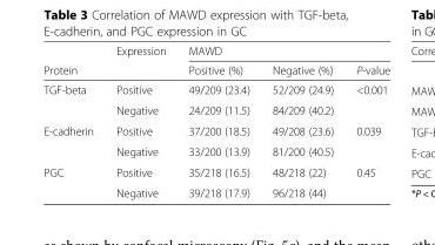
<table><thead><tr><td rowspan="2">Protein</td><td rowspan="2">Expression</td><td colspan="3">MAWD</td></tr><tr><td>Positive (%)</td><td>Negative (%)</td><td>P-value</td></tr></thead><tbody><tr><td rowspan="2">TGF-beta</td><td>Positive</td><td>49/209 (23.4)</td><td>52/209 (24.9)</td><td>&lt;0.001</td></tr><tr><td>Negative</td><td>24/209 (11.5)</td><td>84/209 (40.2)</td><td></td></tr><tr><td rowspan="2">E-cadherin</td><td>Positive</td><td>37/200 (18.5)</td><td>49/208 (23.6)</td><td>0.039</td></tr><tr><td>Negative</td><td>33/200 (13.9)</td><td>81/200 (40.5)</td><td></td></tr><tr><td rowspan="2">PGC</td><td>Positive</td><td>35/218 (16.5)</td><td>48/218 (22)</td><td>0.45</td></tr><tr><td>Negative</td><td>39/218 (17.9)</td><td>96/218 (44)</td><td></td></tr></tbody></table>